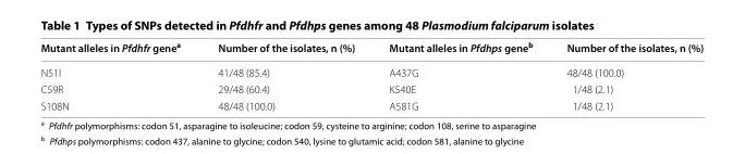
<table><thead><tr><td>Mutant alleles in Pfdhfr gene<sup>a</sup></td><td>Number of the isolates, n (%)</td><td>Mutant alleles in Pfdhps gene<sup>b</sup></td><td>Number of the isolates, n (%)</td></tr></thead><tbody><tr><td>N51I</td><td>41/48 (85.4)</td><td>A437G</td><td>48/48 (100.0)</td></tr><tr><td>C59R</td><td>29/48 (60.4)</td><td>K540E</td><td>1/48 (2.1)</td></tr><tr><td>S108N</td><td>48/48 (100.0)</td><td>A581G</td><td>1/48 (2.1)</td></tr></tbody></table>